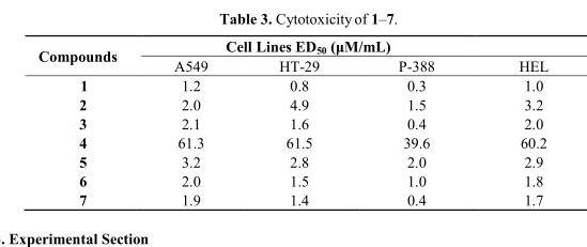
<table><thead><tr><td rowspan="2">Compounds</td><td colspan="3">Cell Lines ED<sub>50</sub> (μM/mL)</td><td rowspan="2">HEL</td></tr><tr><td>A549</td><td>HT-29</td><td>P-388</td></tr></thead><tbody><tr><td>1</td><td>1.2</td><td>0.8</td><td>0.3</td><td>1.0</td></tr><tr><td>2</td><td>2.0</td><td>4.9</td><td>1.5</td><td>3.2</td></tr><tr><td>3</td><td>2.1</td><td>1.6</td><td>0.4</td><td>2.0</td></tr><tr><td>4</td><td>61.3</td><td>61.5</td><td>39.6</td><td>60.2</td></tr><tr><td>5</td><td>3.2</td><td>2.8</td><td>2.0</td><td>2.9</td></tr><tr><td>6</td><td>2.0</td><td>1.5</td><td>1.0</td><td>1.8</td></tr><tr><td>7</td><td>1.9</td><td>1.4</td><td>0.4</td><td>1.7</td></tr></tbody></table>